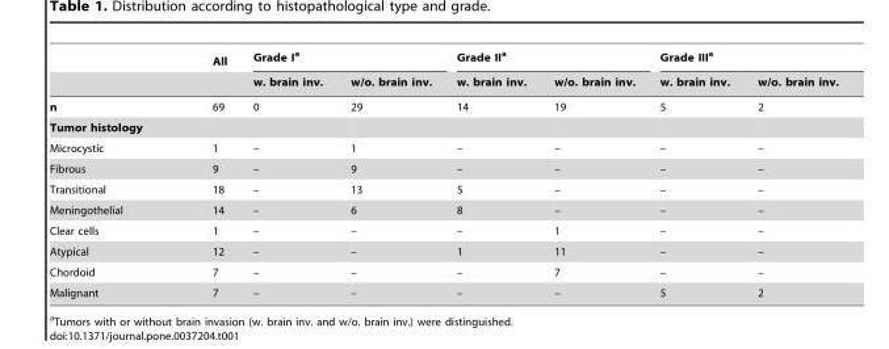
<table><thead><tr><td rowspan="2"></td><td rowspan="2">All</td><td colspan="2">Grade I<sup>a</sup></td><td colspan="2">Grade II<sup>a</sup></td><td colspan="2">Grade III<sup>a</sup></td></tr><tr><td>w. brain inv.</td><td>w/o. brain inv.</td><td>w. brain inv.</td><td>w/o. brain inv.</td><td>w. brain inv.</td><td>w/o. brain inv.</td></tr></thead><tbody><tr><td>n</td><td>69</td><td>0</td><td>29</td><td>14</td><td>19</td><td>5</td><td>2</td></tr><tr><td colspan="8">Tumor histology</td></tr><tr><td>Microcystic</td><td>1</td><td>–</td><td>1</td><td>–</td><td>–</td><td>–</td><td>–</td></tr><tr><td>Fibrous</td><td>9</td><td>–</td><td>9</td><td>–</td><td>–</td><td>–</td><td>–</td></tr><tr><td>Transitional</td><td>18</td><td>–</td><td>13</td><td>5</td><td>–</td><td>–</td><td>–</td></tr><tr><td>Meningothelial</td><td>14</td><td>–</td><td>6</td><td>8</td><td>–</td><td>–</td><td>–</td></tr><tr><td>Clear cells</td><td>1</td><td>–</td><td>–</td><td>–</td><td>1</td><td>–</td><td>–</td></tr><tr><td>Atypical</td><td>12</td><td>–</td><td>–</td><td>1</td><td>11</td><td>–</td><td>–</td></tr><tr><td>Chordoid</td><td>7</td><td>–</td><td>–</td><td>–</td><td>7</td><td>–</td><td>–</td></tr><tr><td>Malignant</td><td>7</td><td>–</td><td>–</td><td>–</td><td>–</td><td>5</td><td>2</td></tr></tbody></table>